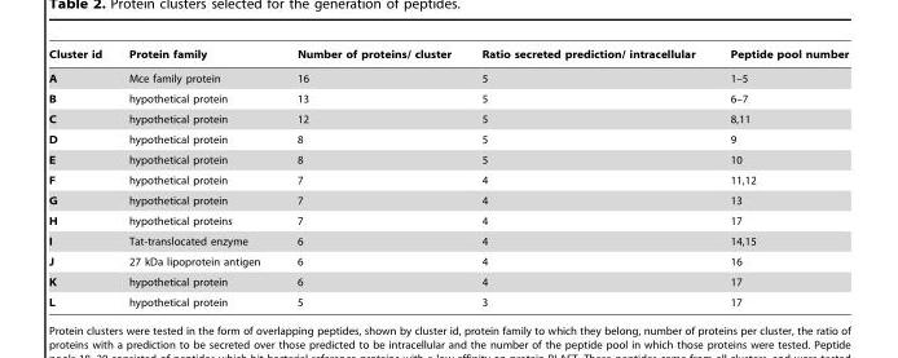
<table><thead><tr><td>Cluster id</td><td>Protein family</td><td>Number of proteins/ cluster</td><td>Ratio secreted prediction/ intracellular</td><td>Peptide pool number</td></tr></thead><tbody><tr><td>A</td><td>Mce family protein</td><td>16</td><td>5</td><td>1–5</td></tr><tr><td>B</td><td>hypothetical protein</td><td>13</td><td>5</td><td>6–7</td></tr><tr><td>C</td><td>hypothetical protein</td><td>12</td><td>5</td><td>8,11</td></tr><tr><td>D</td><td>hypothetical protein</td><td>8</td><td>5</td><td>9</td></tr><tr><td>E</td><td>hypothetical protein</td><td>8</td><td>5</td><td>10</td></tr><tr><td>F</td><td>hypothetical protein</td><td>7</td><td>4</td><td>11,12</td></tr><tr><td>G</td><td>hypothetical protein</td><td>7</td><td>4</td><td>13</td></tr><tr><td>H</td><td>hypothetical proteins</td><td>7</td><td>4</td><td>17</td></tr><tr><td>I</td><td>Tat-translocated enzyme</td><td>6</td><td>4</td><td>14,15</td></tr><tr><td>J</td><td>27 kDa lipoprotein antigen</td><td>6</td><td>4</td><td>16</td></tr><tr><td>K</td><td>hypothetical protein</td><td>6</td><td>4</td><td>17</td></tr><tr><td>L</td><td>hypothetical protein</td><td>5</td><td>3</td><td>17</td></tr></tbody></table>